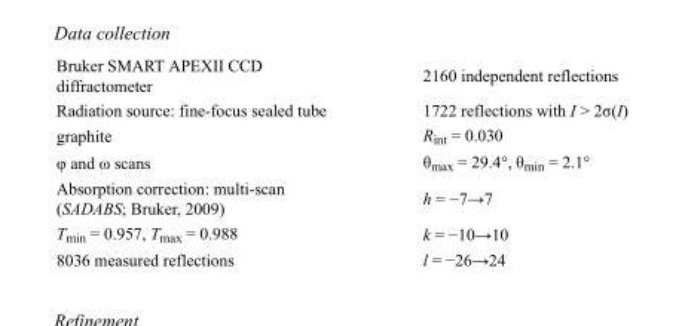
<table><tbody><tr><td>Bruker SMART APEXII CCD diffractometer</td><td>2160 independent reflections</td></tr><tr><td>Radiation source: fine-focus sealed tube</td><td>1722 reflections with I &gt; 2σ(I)</td></tr><tr><td>graphite</td><td>R<sub>int</sub> = 0.030</td></tr><tr><td>φ and ω scans</td><td>θ<sub>max</sub> = 29.4°, θ<sub>min</sub> = 2.1°</td></tr><tr><td>Absorption correction: multi-scan (SADABS; Bruker, 2009)</td><td>h = −7→7</td></tr><tr><td>T<sub>min</sub> = 0.957, T<sub>max</sub> = 0.988</td><td>k = −10→10</td></tr><tr><td>8036 measured reflections</td><td>l = −26→24</td></tr></tbody></table>